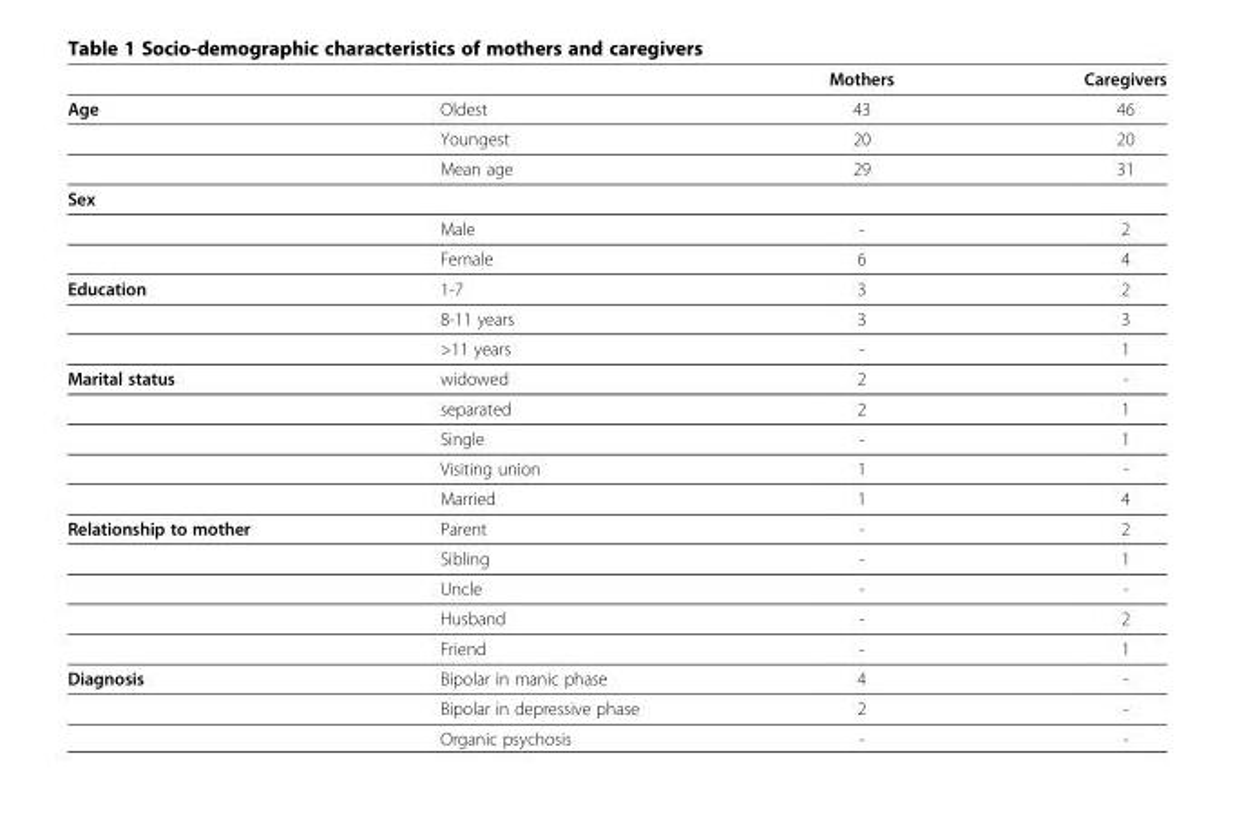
<table><thead><tr><td></td><td></td><td>Mothers</td><td>Caregivers</td></tr></thead><tbody><tr><td rowspan="3">Age</td><td>Oldest</td><td>43</td><td>46</td></tr><tr><td>Youngest</td><td>20</td><td>20</td></tr><tr><td>Mean age</td><td>29</td><td>31</td></tr><tr><td colspan="4">Sex</td></tr><tr><td></td><td>Male</td><td>-</td><td>2</td></tr><tr><td></td><td>Female</td><td>6</td><td>4</td></tr><tr><td rowspan="3">Education</td><td>1-7</td><td>3</td><td>2</td></tr><tr><td>8-11 years</td><td>3</td><td>3</td></tr><tr><td>&gt;11 years</td><td>-</td><td>1</td></tr><tr><td rowspan="5">Marital status</td><td>widowed</td><td>2</td><td>-</td></tr><tr><td>separated</td><td>2</td><td>1</td></tr><tr><td>Single</td><td>-</td><td>1</td></tr><tr><td>Visiting union</td><td>1</td><td>-</td></tr><tr><td>Married</td><td>1</td><td>4</td></tr><tr><td rowspan="5">Relationship to mother</td><td>Parent</td><td>-</td><td>2</td></tr><tr><td>Sibling</td><td>-</td><td>1</td></tr><tr><td>Uncle</td><td>-</td><td>-</td></tr><tr><td>Husband</td><td>-</td><td>2</td></tr><tr><td>Friend</td><td>-</td><td>1</td></tr><tr><td rowspan="3">Diagnosis</td><td>Bipolar in manic phase</td><td>4</td><td>-</td></tr><tr><td>Bipolar in depressive phase</td><td>2</td><td>-</td></tr><tr><td>Organic psychosis</td><td>-</td><td>-</td></tr></tbody></table>